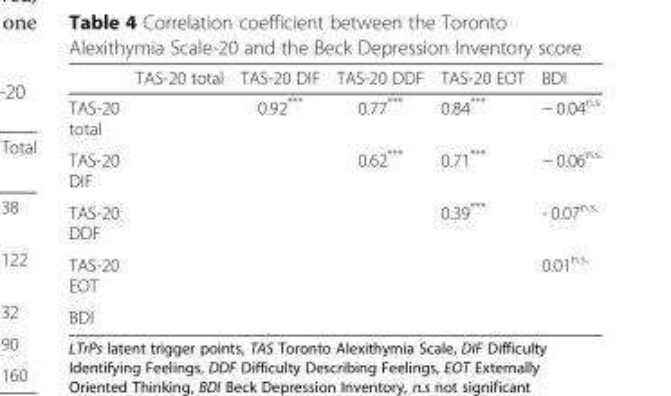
<table><thead><tr><td></td><td>TAS-20 total</td><td>TAS-20 DIF</td><td>TAS-20 DDF</td><td>TAS-20 EOT</td><td>BDI</td></tr></thead><tbody><tr><td>TAS-20 total</td><td></td><td>0.92***</td><td>0.77***</td><td>0.84***</td><td>− 0.04<sup>n.s</sup></td></tr><tr><td>TAS-20 DIF</td><td></td><td></td><td>0.62***</td><td>0.71***</td><td>− 0.06<sup>n.s.</sup></td></tr><tr><td>TAS-20 DDF</td><td></td><td></td><td></td><td>0.39***</td><td>- 0.07<sup>n.s.</sup></td></tr><tr><td>TAS-20 EOT</td><td></td><td></td><td></td><td></td><td>0.01<sup>n.s.</sup></td></tr><tr><td>BDI</td><td></td><td></td><td></td><td></td><td></td></tr></tbody></table>